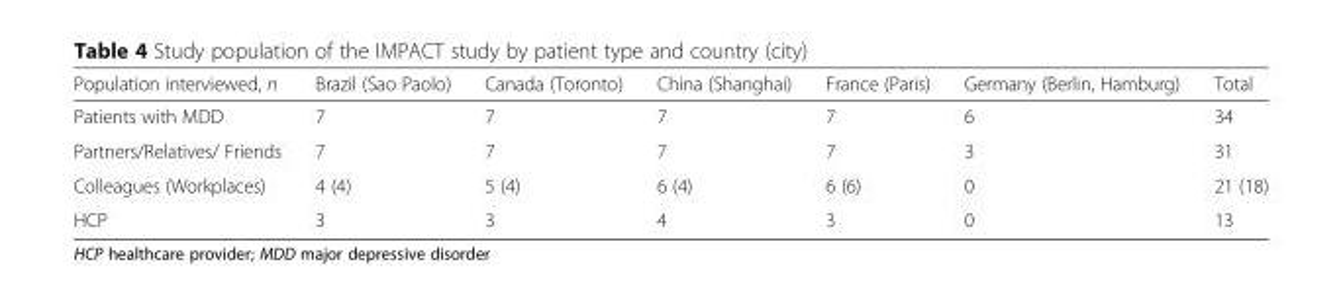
<table><thead><tr><td>Population interviewed, n</td><td>Brazil (Sao Paolo)</td><td>Canada (Toronto)</td><td>China (Shanghai)</td><td>France (Paris)</td><td>Germany (Berlin, Hamburg)</td><td>Total</td></tr></thead><tbody><tr><td>Patients with MDD</td><td>7</td><td>7</td><td>7</td><td>7</td><td>6</td><td>34</td></tr><tr><td>Partners/Relatives/ Friends</td><td>7</td><td>7</td><td>7</td><td>7</td><td>3</td><td>31</td></tr><tr><td>Colleagues (Workplaces)</td><td>4 (4)</td><td>5 (4)</td><td>6 (4)</td><td>6 (6)</td><td>0</td><td>21 (18)</td></tr><tr><td>HCP</td><td>3</td><td>3</td><td>4</td><td>3</td><td>0</td><td>13</td></tr></tbody></table>